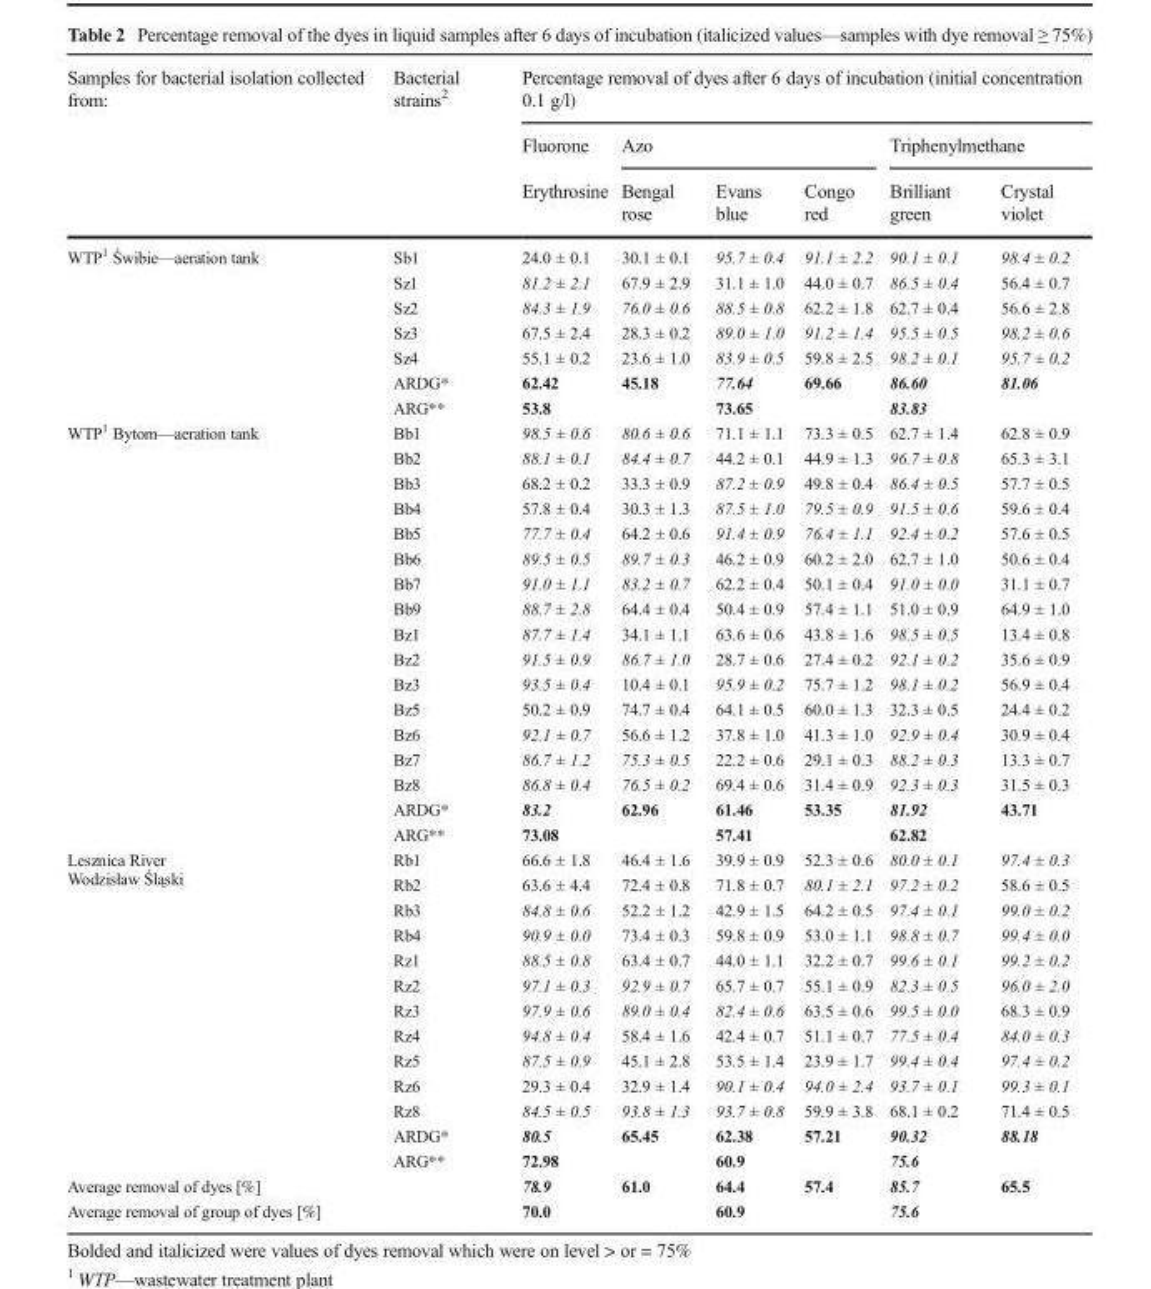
<table><thead><tr><td rowspan="3">Samples for bacterial isolation collected from:</td><td rowspan="3">Bacterial strains<sup>2</sup></td><td colspan="6">Percentage removal of dyes after 6 days of incubation (initial concentration 0.1 g/l)</td></tr><tr><td rowspan="2">Fluorone Erythrosine</td><td colspan="3">Azo</td><td colspan="2">Triphenylmethane</td></tr><tr><td>Bengal rose</td><td>Evans blue</td><td>Congo red</td><td>Brilliant green</td><td>Crystal violet</td></tr></thead><tbody><tr><td rowspan="7">WTP<sup>1</sup> Świbie—aeration tank</td><td>Sb1</td><td>24.0 ± 0.1</td><td>30.1 ± 0.1</td><td>95.7 ± 0.4</td><td>91.1 ± 2.2</td><td>90.1 ± 0.1</td><td>98.4 ± 0.2</td></tr><tr><td>Sz1</td><td>81.2 ± 2.1</td><td>67.9 ± 2.9</td><td>31.1 ± 1.0</td><td>44.0 ± 0.7</td><td>86.5 ± 0.4</td><td>56.4 ± 0.7</td></tr><tr><td>Sz2</td><td>84.3 ± 1.9</td><td>76.0 ± 0.6</td><td>88.5 ± 0.8</td><td>62.2 ± 1.8</td><td>62.7 ± 0.4</td><td>56.6 ± 2.8</td></tr><tr><td>Sz3</td><td>67.5 ± 2.4</td><td>28.3 ± 0.2</td><td>89.0 ± 1.0</td><td>91.2 ± 1.4</td><td>95.5 ± 0.5</td><td>98.2 ± 0.6</td></tr><tr><td>Sz4</td><td>55.1 ± 0.2</td><td>23.6 ± 1.0</td><td>83.9 ± 0.5</td><td>59.8 ± 2.5</td><td>98.2 ± 0.1</td><td>95.7 ± 0.2</td></tr><tr><td>ARDG*</td><td>62.42</td><td>45.18</td><td>77.64</td><td>69.66</td><td>86.60</td><td>81.06</td></tr><tr><td>ARG**</td><td colspan="2">53.8</td><td colspan="2">73.65</td><td colspan="2">83.83</td></tr><tr><td rowspan="17">WTP<sup>1</sup> Bytom—aeration tank</td><td>Bb1</td><td>98.5 ± 0.6</td><td>80.6 ± 0.6</td><td>71.1 ± 1.1</td><td>73.3 ± 0.5</td><td>62.7 ± 1.4</td><td>62.8 ± 0.9</td></tr><tr><td>Bb2</td><td>88.1 ± 0.1</td><td>84.4 ± 0.7</td><td>44.2 ± 0.1</td><td>44.9 ± 1.3</td><td>96.7 ± 0.8</td><td>65.3 ± 3.1</td></tr><tr><td>Bb3</td><td>68.2 ± 0.2</td><td>33.3 ± 0.9</td><td>87.2 ± 0.9</td><td>49.8 ± 0.4</td><td>86.4 ± 0.5</td><td>57.7 ± 0.5</td></tr><tr><td>Bb4</td><td>57.8 ± 0.4</td><td>30.3 ± 1.3</td><td>87.5 ± 1.0</td><td>79.5 ± 0.9</td><td>91.5 ± 0.6</td><td>59.6 ± 0.4</td></tr><tr><td>Bb5</td><td>77.7 ± 0.4</td><td>64.2 ± 0.6</td><td>91.4 ± 0.9</td><td>76.4 ± 1.1</td><td>92.4 ± 0.2</td><td>57.6 ± 0.5</td></tr><tr><td>Bb6</td><td>89.5 ± 0.5</td><td>89.7 ± 0.3</td><td>46.2 ± 0.9</td><td>60.2 ± 2.0</td><td>62.7 ± 1.0</td><td>50.6 ± 0.4</td></tr><tr><td>Bb7</td><td>91.0 ± 1.1</td><td>83.2 ± 0.7</td><td>62.2 ± 0.4</td><td>50.1 ± 0.4</td><td>91.0 ± 0.0</td><td>31.1 ± 0.7</td></tr><tr><td>Bb9</td><td>88.7 ± 2.8</td><td>64.4 ± 0.4</td><td>50.4 ± 0.9</td><td>57.4 ± 1.1</td><td>51.0 ± 0.9</td><td>64.9 ± 1.0</td></tr><tr><td>Bz1</td><td>87.7 ± 1.4</td><td>34.1 ± 1.1</td><td>63.6 ± 0.6</td><td>43.8 ± 1.6</td><td>98.5 ± 0.5</td><td>13.4 ± 0.8</td></tr><tr><td>Bz2</td><td>91.5 ± 0.9</td><td>86.7 ± 1.0</td><td>28.7 ± 0.6</td><td>27.4 ± 0.2</td><td>92.1 ± 0.2</td><td>35.6 ± 0.9</td></tr><tr><td>Bz3</td><td>93.5 ± 0.4</td><td>10.4 ± 0.1</td><td>95.9 ± 0.2</td><td>75.7 ± 1.2</td><td>98.1 ± 0.2</td><td>56.9 ± 0.4</td></tr><tr><td>Bz5</td><td>50.2 ± 0.9</td><td>74.7 ± 0.4</td><td>64.1 ± 0.5</td><td>60.0 ± 1.3</td><td>32.3 ± 0.5</td><td>24.4 ± 0.2</td></tr><tr><td>Bz6</td><td>92.1 ± 0.7</td><td>56.6 ± 1.2</td><td>37.8 ± 1.0</td><td>41.3 ± 1.0</td><td>92.9 ± 0.4</td><td>30.9 ± 0.4</td></tr><tr><td>Bz7</td><td>86.7 ± 1.2</td><td>75.3 ± 0.5</td><td>22.2 ± 0.6</td><td>29.1 ± 0.3</td><td>88.2 ± 0.3</td><td>13.3 ± 0.7</td></tr><tr><td>Bz8</td><td>86.8 ± 0.4</td><td>76.5 ± 0.2</td><td>69.4 ± 0.6</td><td>31.4 ± 0.9</td><td>92.3 ± 0.3</td><td>31.5 ± 0.3</td></tr><tr><td>ARDG*</td><td>83.2</td><td>62.96</td><td>61.46</td><td>53.35</td><td>81.92</td><td>43.71</td></tr><tr><td>ARG**</td><td colspan="2">73.08</td><td colspan="2">57.41</td><td colspan="2">62.82</td></tr><tr><td rowspan="13">Lesznica River Wodzisław Śląski</td><td>Rb1</td><td>66.6 ± 1.8</td><td>46.4 ± 1.6</td><td>39.9 ± 0.9</td><td>52.3 ± 0.6</td><td>80.0 ± 0.1</td><td>97.4 ± 0.3</td></tr><tr><td>Rb2</td><td>63.6 ± 4.4</td><td>72.4 ± 0.8</td><td>71.8 ± 0.7</td><td>80.1 ± 2.1</td><td>97.2 ± 0.2</td><td>58.6 ± 0.5</td></tr><tr><td>Rb3</td><td>84.8 ± 0.6</td><td>52.2 ± 1.2</td><td>42.9 ± 1.5</td><td>64.2 ± 0.5</td><td>97.4 ± 0.1</td><td>99.0 ± 0.2</td></tr><tr><td>Rb4</td><td>90.9 ± 0.0</td><td>73.4 ± 0.3</td><td>59.8 ± 0.9</td><td>53.0 ± 1.1</td><td>98.8 ± 0.7</td><td>99.4 ± 0.0</td></tr><tr><td>Rz1</td><td>88.5 ± 0.8</td><td>63.4 ± 0.7</td><td>44.0 ± 1.1</td><td>32.2 ± 0.7</td><td>99.6 ± 0.1</td><td>99.2 ± 0.2</td></tr><tr><td>Rz2</td><td>97.1 ± 0.3</td><td>92.9 ± 0.7</td><td>65.7 ± 0.7</td><td>55.1 ± 0.9</td><td>82.3 ± 0.5</td><td>96.0 ± 2.0</td></tr><tr><td>Rz3</td><td>97.9 ± 0.6</td><td>89.0 ± 0.4</td><td>82.4 ± 0.6</td><td>63.5 ± 0.6</td><td>99.5 ± 0.0</td><td>68.3 ± 0.9</td></tr><tr><td>Rz4</td><td>94.8 ± 0.4</td><td>58.4 ± 1.6</td><td>42.4 ± 0.7</td><td>51.1 ± 0.7</td><td>77.5 ± 0.4</td><td>84.0 ± 0.3</td></tr><tr><td>Rz5</td><td>87.5 ± 0.9</td><td>45.1 ± 2.8</td><td>53.5 ± 1.4</td><td>23.9 ± 1.7</td><td>99.4 ± 0.4</td><td>97.4 ± 0.2</td></tr><tr><td>Rz6</td><td>29.3 ± 0.4</td><td>32.9 ± 1.4</td><td>90.1 ± 0.4</td><td>94.0 ± 2.4</td><td>93.7 ± 0.1</td><td>99.3 ± 0.1</td></tr><tr><td>Rz8</td><td>84.5 ± 0.5</td><td>93.8 ± 1.3</td><td>93.7 ± 0.8</td><td>59.9 ± 3.8</td><td>68.1 ± 0.2</td><td>71.4 ± 0.5</td></tr><tr><td>ARDG*</td><td>80.5</td><td>65.45</td><td>62.38</td><td>57.21</td><td>90.32</td><td>88.18</td></tr><tr><td>ARG**</td><td colspan="2">72.98</td><td colspan="2">60.9</td><td colspan="2">75.6</td></tr><tr><td colspan="2">Average removal of dyes [%]</td><td>78.9</td><td>61.0</td><td>64.4</td><td>57.4</td><td>85.7</td><td>65.5</td></tr><tr><td colspan="2">Average removal of group of dyes [%]</td><td colspan="2">70.0</td><td colspan="2">60.9</td><td colspan="2">75.6</td></tr></tbody></table>